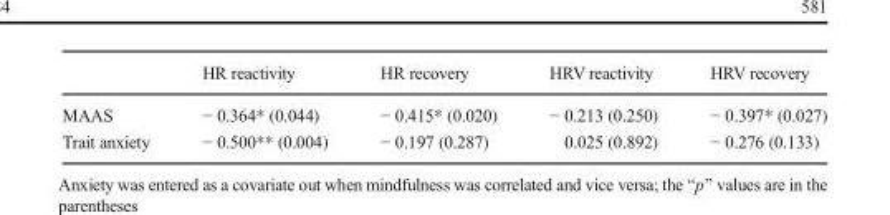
<table><thead><tr><td></td><td>HR reactivity</td><td>HR recovery</td><td>HRV reactivity</td><td>HRV recovery</td></tr></thead><tbody><tr><td>MAAS</td><td>− 0.364* (0.044)</td><td>− 0.415* (0.020)</td><td>− 0.213 (0.250)</td><td>− 0.397* (0.027)</td></tr><tr><td>Trait anxiety</td><td>− 0.500** (0.004)</td><td>− 0.197 (0.287)</td><td>0.025 (0.892)</td><td>− 0.276 (0.133)</td></tr></tbody></table>